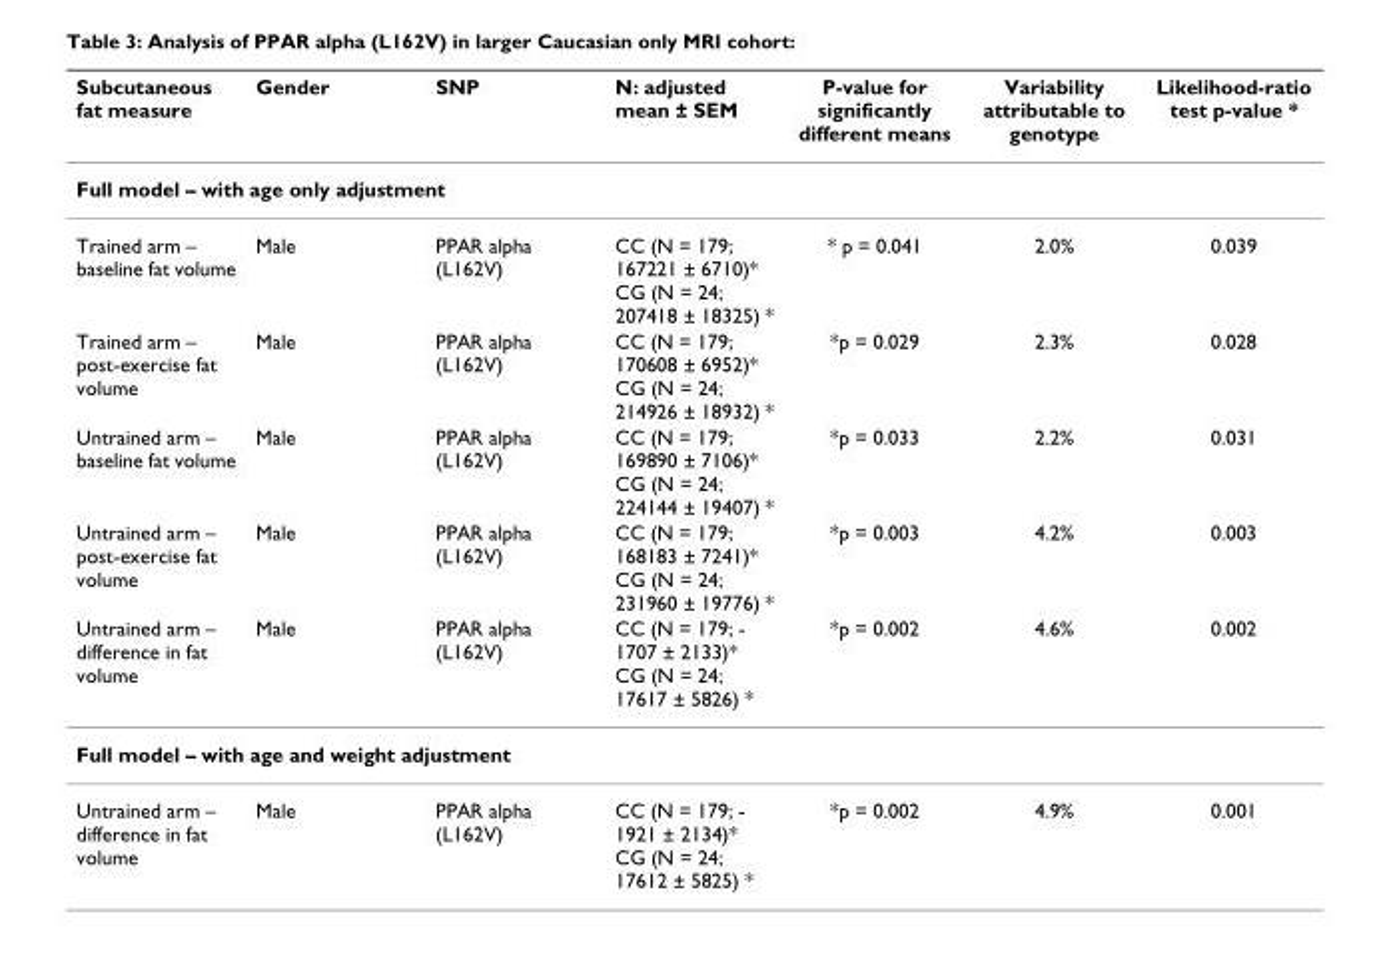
<table><thead><tr><td>Subcutaneous fat measure</td><td>Gender</td><td>SNP</td><td>N: adjusted mean ± SEM</td><td>P-value for significantly different means</td><td>Variability attributable to genotype</td><td>Likelihood-ratio test p-value *</td></tr></thead><tbody><tr><td colspan="7">Full model – with age only adjustment</td></tr><tr><td>Trained arm – baseline fat volume</td><td>Male</td><td>PPAR alpha (L162V)</td><td>CC (N = 179; 167221 ± 6710)* CG (N = 24; 207418 ± 18325) *</td><td>* p = 0.041</td><td>2.0%</td><td>0.039</td></tr><tr><td>Trained arm – post-exercise fat volume</td><td>Male</td><td>PPAR alpha (L162V)</td><td>CC (N = 179; 170608 ± 6952)* CG (N = 24; 214926 ± 18932) *</td><td>*p = 0.029</td><td>2.3%</td><td>0.028</td></tr><tr><td>Untrained arm – baseline fat volume</td><td>Male</td><td>PPAR alpha (L162V)</td><td>CC (N = 179; 169890 ± 7106)* CG (N = 24; 224144 ± 19407) *</td><td>*p = 0.033</td><td>2.2%</td><td>0.031</td></tr><tr><td>Untrained arm – post-exercise fat volume</td><td>Male</td><td>PPAR alpha (L162V)</td><td>CC (N = 179; 168183 ± 7241)* CG (N = 24; 231960 ± 19776) *</td><td>*p = 0.003</td><td>4.2%</td><td>0.003</td></tr><tr><td>Untrained arm – difference in fat volume</td><td>Male</td><td>PPAR alpha (L162V)</td><td>CC (N = 179; - 1707 ± 2133)* CG (N = 24; 17617 ± 5826) *</td><td>*p = 0.002</td><td>4.6%</td><td>0.002</td></tr><tr><td colspan="7">Full model – with age and weight adjustment</td></tr><tr><td>Untrained arm – difference in fat volume</td><td>Male</td><td>PPAR alpha (L162V)</td><td>CC (N = 179; - 1921 ± 2134)* CG (N = 24; 17612 ± 5825) *</td><td>*p = 0.002</td><td>4.9%</td><td>0.001</td></tr></tbody></table>